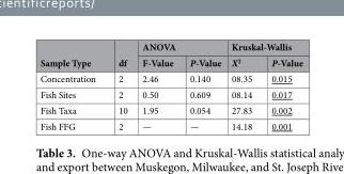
<table><thead><tr><td rowspan="2">Sample Type</td><td rowspan="2">df</td><td colspan="2">ANOVA</td><td colspan="2">Kruskal-Wallis</td></tr><tr><td>F-Value</td><td>P-Value</td><td>X<sup>2</sup></td><td>P-Value</td></tr></thead><tbody><tr><td>Concentration</td><td>2</td><td>2.46</td><td>0.140</td><td>08.35</td><td>0.015</td></tr><tr><td>Fish Sites</td><td>2</td><td>0.50</td><td>0.609</td><td>08.14</td><td>0.017</td></tr><tr><td>Fish Taxa</td><td>10</td><td>1.95</td><td>0.054</td><td>27.83</td><td>0.002</td></tr><tr><td>Fish FFG</td><td>2</td><td>—</td><td>—</td><td>14.18</td><td>0.001</td></tr></tbody></table>